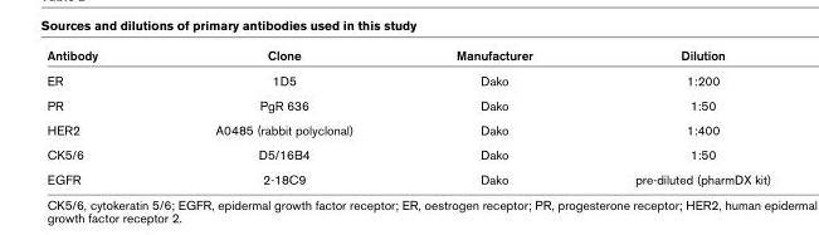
<table><thead><tr><td>Antibody</td><td>Clone</td><td>Manufacturer</td><td>Dilution</td></tr></thead><tbody><tr><td>ER</td><td>1D5</td><td>Dako</td><td>1:200</td></tr><tr><td>PR</td><td>PgR 636</td><td>Dako</td><td>1:50</td></tr><tr><td>HER2</td><td>A0485 (rabbit polyclonal)</td><td>Dako</td><td>1:400</td></tr><tr><td>CK5/6</td><td>D5/16B4</td><td>Dako</td><td>1:50</td></tr><tr><td>EGFR</td><td>2-18C9</td><td>Dako</td><td>pre-diluted (pharmDX kit)</td></tr></tbody></table>